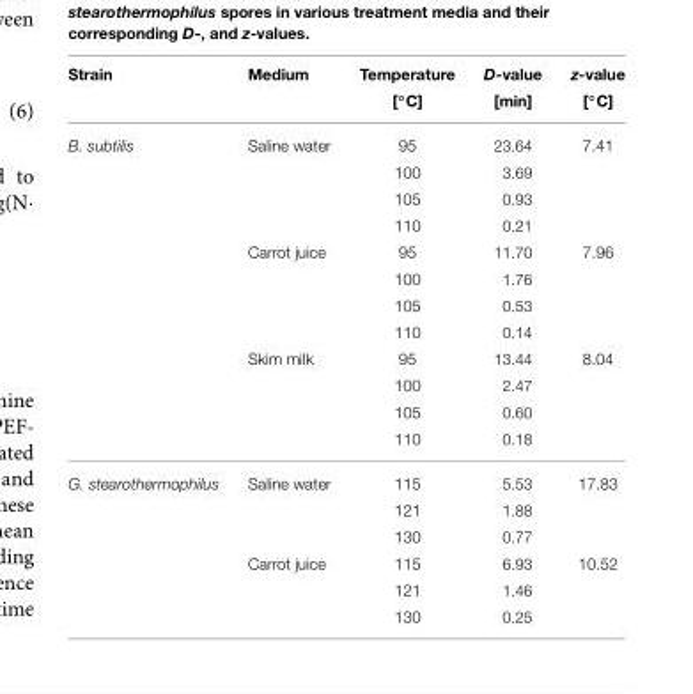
<table><thead><tr><td>Strain</td><td>Medium</td><td>Temperature [◦C]</td><td>D-value [min]</td><td>z-value [◦C]</td></tr></thead><tbody><tr><td rowspan="12">B. subtilis</td><td>Saline water</td><td>95</td><td>23.64</td><td>7.41</td></tr><tr><td></td><td>100</td><td>3.69</td><td></td></tr><tr><td></td><td>105</td><td>0.93</td><td></td></tr><tr><td></td><td>110</td><td>0.21</td><td></td></tr><tr><td>Carrot juice</td><td>95</td><td>11.70</td><td>7.96</td></tr><tr><td></td><td>100</td><td>1.76</td><td></td></tr><tr><td></td><td>105</td><td>0.53</td><td></td></tr><tr><td></td><td>110</td><td>0.14</td><td></td></tr><tr><td>Skim milk</td><td>95</td><td>13.44</td><td>8.04</td></tr><tr><td></td><td>100</td><td>2.47</td><td></td></tr><tr><td></td><td>105</td><td>0.60</td><td></td></tr><tr><td></td><td>110</td><td>0.18</td><td></td></tr><tr><td rowspan="6">G. stearothermophilus</td><td>Saline water</td><td>115</td><td>5.53</td><td>17.83</td></tr><tr><td></td><td>121</td><td>1.88</td><td></td></tr><tr><td></td><td>130</td><td>0.77</td><td></td></tr><tr><td>Carrot juice</td><td>115</td><td>6.93</td><td>10.52</td></tr><tr><td></td><td>121</td><td>1.46</td><td></td></tr><tr><td></td><td>130</td><td>0.25</td><td></td></tr></tbody></table>